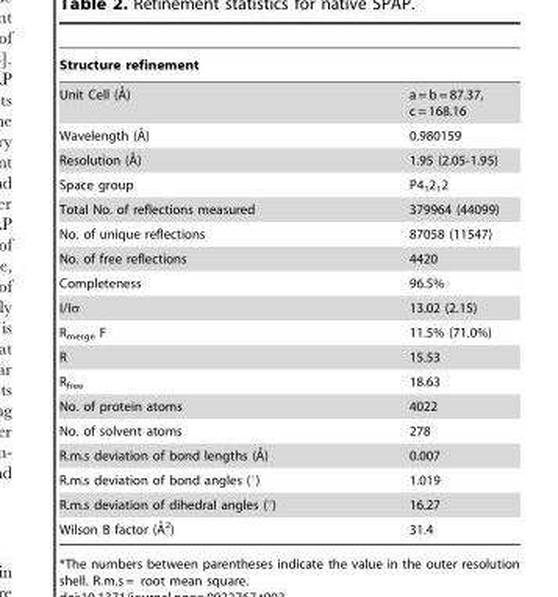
<table><thead><tr><td>Structure refinement</td><td></td></tr></thead><tbody><tr><td>Unit Cell (A˚)</td><td>a = b = 87.37, c = 168.16</td></tr><tr><td>Wavelength (A˚)</td><td>0.980159</td></tr><tr><td>Resolution (A˚)</td><td>1.95 (2.05-1.95)</td></tr><tr><td>Space group</td><td>P4<sub>1</sub>2<sub>1</sub>2</td></tr><tr><td>Total No. of reflections measured</td><td>379964 (44099)</td></tr><tr><td>No. of unique reflections</td><td>87058 (11547)</td></tr><tr><td>No. of free reflections</td><td>4420</td></tr><tr><td>Completeness</td><td>96.5%</td></tr><tr><td>I/Iσ</td><td>13.02 (2.15)</td></tr><tr><td>R<sub>merge</sub> F</td><td>11.5% (71.0%)</td></tr><tr><td>R</td><td>15.53</td></tr><tr><td>R<sub>free</sub></td><td>18.63</td></tr><tr><td>No. of protein atoms</td><td>4022</td></tr><tr><td>No. of solvent atoms</td><td>278</td></tr><tr><td>R.m.s deviation of bond lengths (A˚)</td><td>0.007</td></tr><tr><td>R.m.s deviation of bond angles (°)</td><td>1.019</td></tr><tr><td>R.m.s deviation of dihedral angles (°)</td><td>16.27</td></tr><tr><td>Wilson B factor (A˚ 2)</td><td>31.4</td></tr></tbody></table>